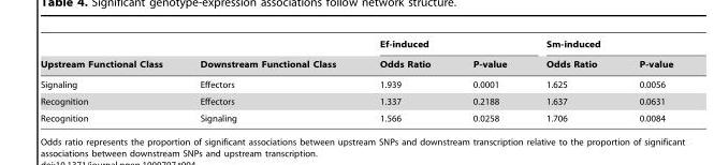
<table><thead><tr><td rowspan="2">Upstream Functional Class</td><td rowspan="2">Downstream Functional Class</td><td colspan="2">Ef-induced</td><td colspan="2">Sm-induced</td></tr><tr><td>Odds Ratio</td><td>P-value</td><td>Odds Ratio</td><td>P-value</td></tr></thead><tbody><tr><td>Signaling</td><td>Effectors</td><td>1.939</td><td>0.0001</td><td>1.625</td><td>0.0056</td></tr><tr><td>Recognition</td><td>Effectors</td><td>1.337</td><td>0.2188</td><td>1.637</td><td>0.0631</td></tr><tr><td>Recognition</td><td>Signaling</td><td>1.566</td><td>0.0258</td><td>1.706</td><td>0.0084</td></tr></tbody></table>